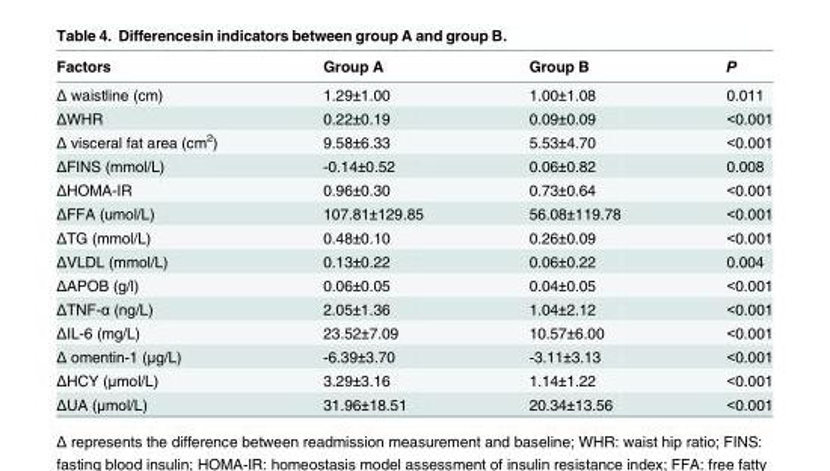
<table><thead><tr><td>Factors</td><td>Group A</td><td>Group B</td><td>P</td></tr></thead><tbody><tr><td>Δ waistline (cm)</td><td>1.29±1.00</td><td>1.00±1.08</td><td>0.011</td></tr><tr><td>ΔWHR</td><td>0.22±0.19</td><td>0.09±0.09</td><td>&lt;0.001</td></tr><tr><td>Δ visceral fat area (cm<sup>2</sup>)</td><td>9.58±6.33</td><td>5.53±4.70</td><td>&lt;0.001</td></tr><tr><td>ΔFINS (mmol/L)</td><td>-0.14±0.52</td><td>0.06±0.82</td><td>0.008</td></tr><tr><td>ΔHOMA-IR</td><td>0.96±0.30</td><td>0.73±0.64</td><td>&lt;0.001</td></tr><tr><td>ΔFFA (umol/L)</td><td>107.81±129.85</td><td>56.08±119.78</td><td>&lt;0.001</td></tr><tr><td>ΔTG (mmol/L)</td><td>0.48±0.10</td><td>0.26±0.09</td><td>&lt;0.001</td></tr><tr><td>ΔVLDL (mmol/L)</td><td>0.13±0.22</td><td>0.06±0.22</td><td>0.004</td></tr><tr><td>ΔAPOB (g/l)</td><td>0.06±0.05</td><td>0.04±0.05</td><td>&lt;0.001</td></tr><tr><td>ΔTNF-α (ng/L)</td><td>2.05±1.36</td><td>1.04±2.12</td><td>&lt;0.001</td></tr><tr><td>ΔIL-6 (mg/L)</td><td>23.52±7.09</td><td>10.57±6.00</td><td>&lt;0.001</td></tr><tr><td>Δ omentin-1 (μg/L)</td><td>-6.39±3.70</td><td>-3.11±3.13</td><td>&lt;0.001</td></tr><tr><td>ΔHCY (μmol/L)</td><td>3.29±3.16</td><td>1.14±1.22</td><td>&lt;0.001</td></tr><tr><td>ΔUA (μmol/L)</td><td>31.96±18.51</td><td>20.34±13.56</td><td>&lt;0.001</td></tr></tbody></table>